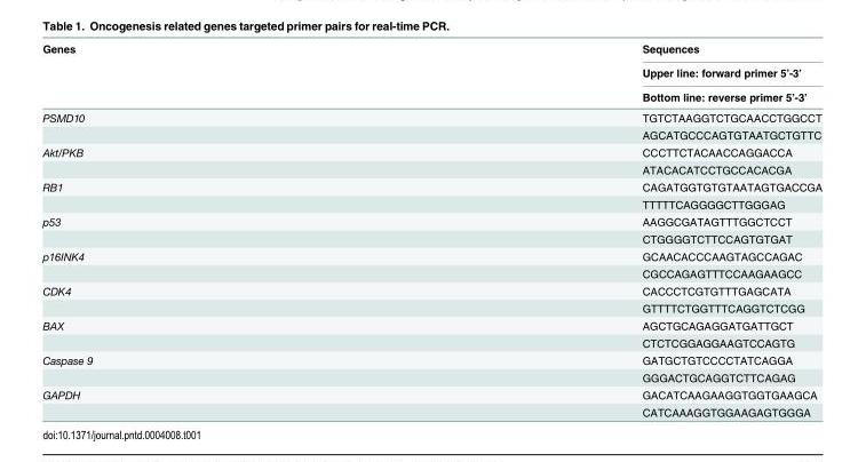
<table><thead><tr><td rowspan="3">Genes</td><td rowspan="3">Sequences Upper line: forward primer 5’-3’ Bottom line: reverse primer 5’-3’</td></tr><tr></tr><tr></tr></thead><tbody><tr><td rowspan="2">PSMD10</td><td>TGTCTAAGGTCTGCAACCTGGCCT</td></tr><tr><td>AGCATGCCCAGTGTAATGCTGTTC</td></tr><tr><td rowspan="2">Akt/PKB</td><td>CCCTTCTACAACCAGGACCA</td></tr><tr><td>ATACACATCCTGCCACACGA</td></tr><tr><td rowspan="2">RB1</td><td>CAGATGGTGTGTAATAGTGACCGA</td></tr><tr><td>TTTTTCAGGGGCTTGGGAG</td></tr><tr><td rowspan="2">p53</td><td>AAGGCGATAGTTTGGCTCCT</td></tr><tr><td>CTGGGGTCTTCCAGTGTGAT</td></tr><tr><td rowspan="2">p16INK4</td><td>GCAACACCCAAGTAGCCAGAC</td></tr><tr><td>CGCCAGAGTTTCCAAGAAGCC</td></tr><tr><td rowspan="2">CDK4</td><td>CACCCTCGTGTTTGAGCATA</td></tr><tr><td>GTTTTCTGGTTTCAGGTCTCGG</td></tr><tr><td rowspan="2">BAX</td><td>AGCTGCAGAGGATGATTGCT</td></tr><tr><td>CTCTCGGAGGAAGTCCAGTG</td></tr><tr><td rowspan="2">Caspase 9</td><td>GATGCTGTCCCCTATCAGGA</td></tr><tr><td>GGGACTGCAGGTCTTCAGAG</td></tr><tr><td rowspan="2">GAPDH</td><td>GACATCAAGAAGGTGGTGAAGCA</td></tr><tr><td>CATCAAAGGTGGAAGAGTGGGA</td></tr></tbody></table>